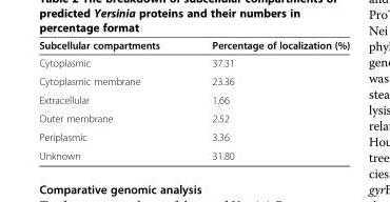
<table><thead><tr><td>Subcellular compartments</td><td>Percentage of localization (%)</td></tr></thead><tbody><tr><td>Cytoplasmic</td><td>37.31</td></tr><tr><td>Cytoplasmic membrane</td><td>23.36</td></tr><tr><td>Extracellular</td><td>1.66</td></tr><tr><td>Outer membrane</td><td>2.52</td></tr><tr><td>Periplasmic</td><td>3.36</td></tr><tr><td>Unknown</td><td>31.80</td></tr></tbody></table>